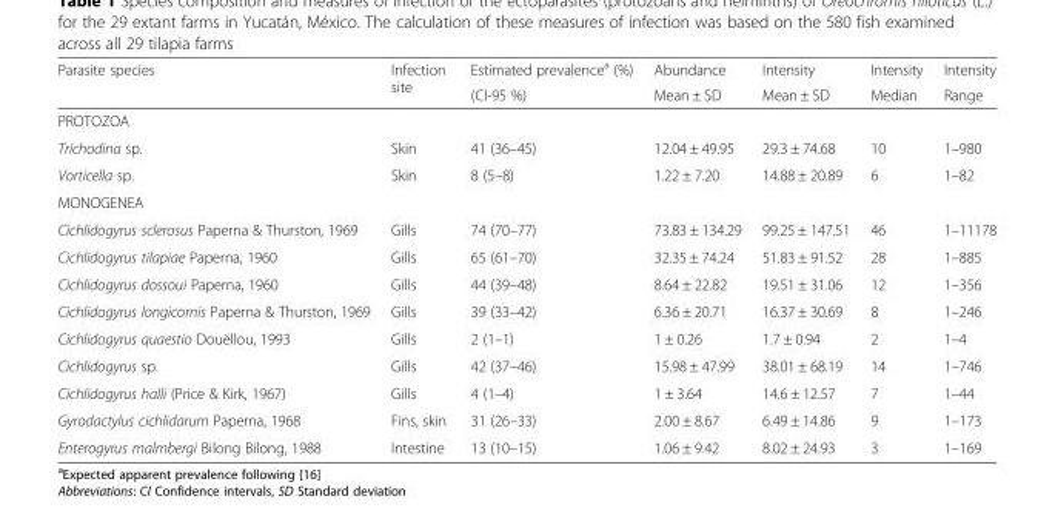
<table><thead><tr><td rowspan="2">Parasite species</td><td rowspan="2">Infection site</td><td rowspan="2">Estimated prevalence<sup>a</sup> (%) (CI-95 %)</td><td rowspan="2">Abundance Mean ± SD</td><td rowspan="2">Intensity Mean ± SD</td><td rowspan="2">Intensity Median</td><td rowspan="2">Intensity Range</td></tr><tr></tr></thead><tbody><tr><td colspan="7">PROTOZOA</td></tr><tr><td>Trichodina sp.</td><td>Skin</td><td>41 (36–45)</td><td>12.04 ± 49.95</td><td>29.3 ± 74.68</td><td>10</td><td>1–980</td></tr><tr><td>Vorticella sp.</td><td>Skin</td><td>8 (5–8)</td><td>1.22 ± 7.20</td><td>14.88 ± 20.89</td><td>6</td><td>1–82</td></tr><tr><td colspan="7">MONOGENEA</td></tr><tr><td>Cichlidogyrus sclerosus Paperna &amp; Thurston, 1969</td><td>Gills</td><td>74 (70–77)</td><td>73.83 ± 134.29</td><td>99.25 ± 147.51</td><td>46</td><td>1–11178</td></tr><tr><td>Cichlidogyrus tilapiae Paperna, 1960</td><td>Gills</td><td>65 (61–70)</td><td>32.35 ± 74.24</td><td>51.83 ± 91.52</td><td>28</td><td>1–885</td></tr><tr><td>Cichlidogyrus dossoui Paperna, 1960</td><td>Gills</td><td>44 (39–48)</td><td>8.64 ± 22.82</td><td>19.51 ± 31.06</td><td>12</td><td>1–356</td></tr><tr><td>Cichlidogyrus longicornis Paperna &amp; Thurston, 1969</td><td>Gills</td><td>39 (33–42)</td><td>6.36 ± 20.71</td><td>16.37 ± 30.69</td><td>8</td><td>1–246</td></tr><tr><td>Cichlidogyrus quaestio Douëllou, 1993</td><td>Gills</td><td>2 (1–1)</td><td>1 ± 0.26</td><td>1.7 ± 0.94</td><td>2</td><td>1–4</td></tr><tr><td>Cichlidogyrus sp.</td><td>Gills</td><td>42 (37–46)</td><td>15.98 ± 47.99</td><td>38.01 ± 68.19</td><td>14</td><td>1–746</td></tr><tr><td>Cichlidogyrus halli (Price &amp; Kirk, 1967)</td><td>Gills</td><td>4 (1–4)</td><td>1 ± 3.64</td><td>14.6 ± 12.57</td><td>7</td><td>1–44</td></tr><tr><td>Gyrodactylus cichlidarum Paperna, 1968</td><td>Fins, skin</td><td>31 (26–33)</td><td>2.00 ± 8.67</td><td>6.49 ± 14.86</td><td>9</td><td>1–173</td></tr><tr><td>Enterogyrus malmbergi Bilong Bilong, 1988</td><td>Intestine</td><td>13 (10–15)</td><td>1.06 ± 9.42</td><td>8.02 ± 24.93</td><td>3</td><td>1–169</td></tr></tbody></table>